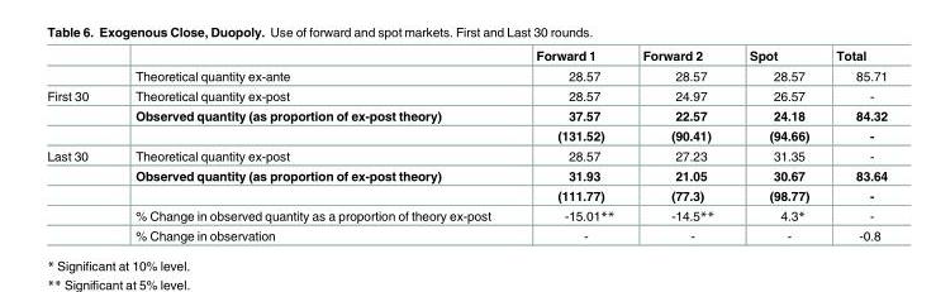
<table><thead><tr><td></td><td></td><td>Forward 1</td><td>Forward 2</td><td>Spot</td><td>Total</td></tr></thead><tbody><tr><td></td><td>Theoretical quantity ex-ante</td><td>28.57</td><td>28.57</td><td>28.57</td><td>85.71</td></tr><tr><td rowspan="3">First 30</td><td>Theoretical quantity ex-post</td><td>28.57</td><td>24.97</td><td>26.57</td><td>-</td></tr><tr><td>Observed quantity (as proportion of ex-post theory)</td><td>37.57</td><td>22.57</td><td>24.18</td><td>84.32</td></tr><tr><td></td><td>(131.52)</td><td>(90.41)</td><td>(94.66)</td><td>-</td></tr><tr><td rowspan="5">Last 30</td><td>Theoretical quantity ex-post</td><td>28.57</td><td>27.23</td><td>31.35</td><td>-</td></tr><tr><td>Observed quantity (as proportion of ex-post theory)</td><td>31.93</td><td>21.05</td><td>30.67</td><td>83.64</td></tr><tr><td></td><td>(111.77)</td><td>(77.3)</td><td>(98.77)</td><td>-</td></tr><tr><td>% Change in observed quantity as a proportion of theory ex-post</td><td>-15.01**</td><td>-14.5**</td><td>4.3*</td><td>-</td></tr><tr><td>% Change in observation</td><td>-</td><td>-</td><td>-</td><td>-0.8</td></tr></tbody></table>